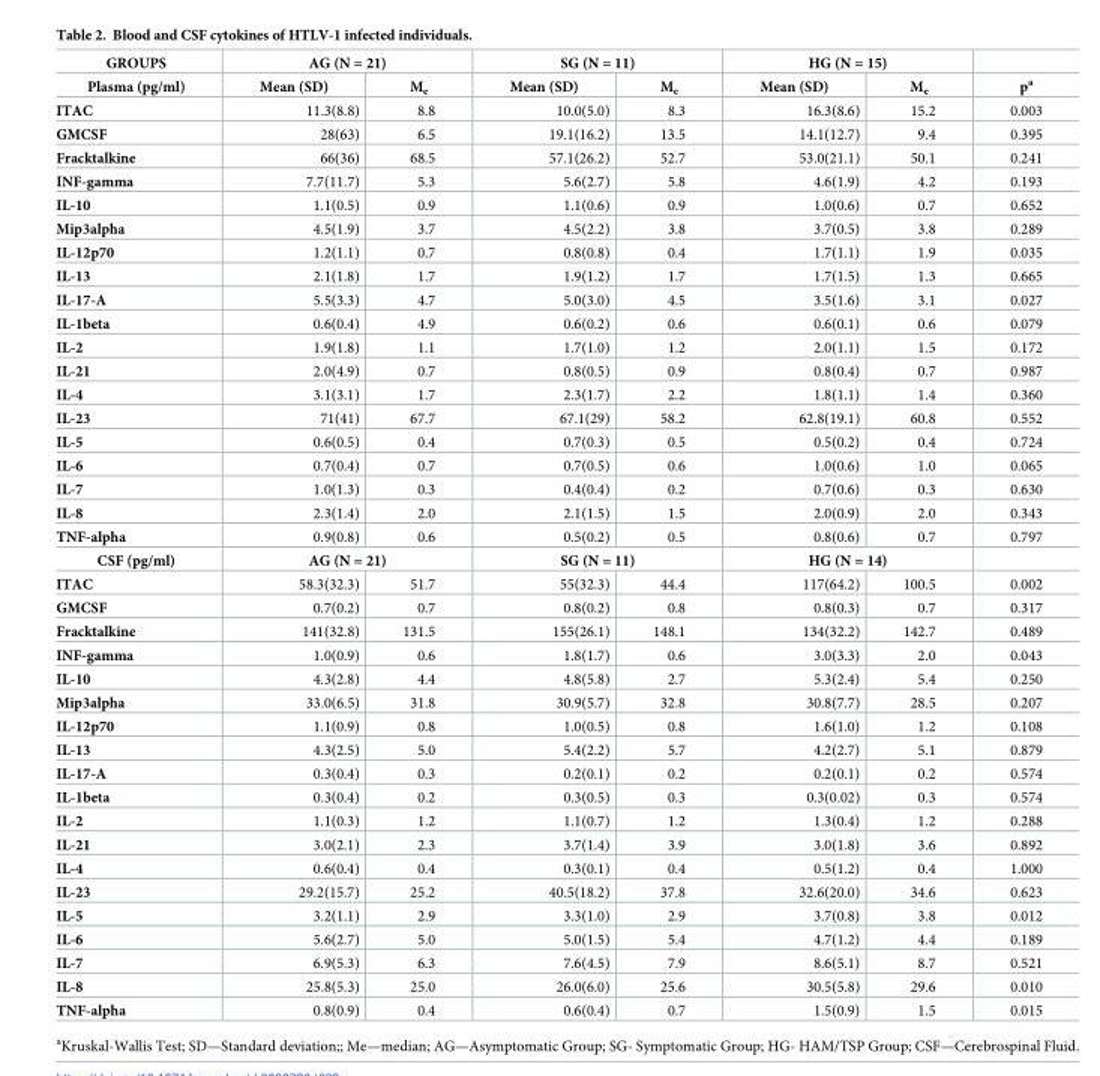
<table><thead><tr><td rowspan="2">GROUPS Plasma (pg/ml)</td><td colspan="2">AG (N = 21)</td><td colspan="2">SG (N = 11)</td><td colspan="2">HG (N = 15)</td><td rowspan="2">p<sup>a</sup></td></tr><tr><td>Mean (SD)</td><td>M<sub>e</sub></td><td>Mean (SD)</td><td>M<sub>e</sub></td><td>Mean (SD)</td><td>M<sub>e</sub></td></tr></thead><tbody><tr><td>ITAC</td><td>11.3(8.8)</td><td>8.8</td><td>10.0(5.0)</td><td>8.3</td><td>16.3(8.6)</td><td>15.2</td><td>0.003</td></tr><tr><td>GMCSF</td><td>28(63)</td><td>6.5</td><td>19.1(16.2)</td><td>13.5</td><td>14.1(12.7)</td><td>9.4</td><td>0.395</td></tr><tr><td>Fracktalkine</td><td>66(36)</td><td>68.5</td><td>57.1(26.2)</td><td>52.7</td><td>53.0(21.1)</td><td>50.1</td><td>0.241</td></tr><tr><td>INF-gamma</td><td>7.7(11.7)</td><td>5.3</td><td>5.6(2.7)</td><td>5.8</td><td>4.6(1.9)</td><td>4.2</td><td>0.193</td></tr><tr><td>IL-10</td><td>1.1(0.5)</td><td>0.9</td><td>1.1(0.6)</td><td>0.9</td><td>1.0(0.6)</td><td>0.7</td><td>0.652</td></tr><tr><td>Mip3alpha</td><td>4.5(1.9)</td><td>3.7</td><td>4.5(2.2)</td><td>3.8</td><td>3.7(0.5)</td><td>3.8</td><td>0.289</td></tr><tr><td>IL-12p70</td><td>1.2(1.1)</td><td>0.7</td><td>0.8(0.8)</td><td>0.4</td><td>1.7(1.1)</td><td>1.9</td><td>0.035</td></tr><tr><td>IL-13</td><td>2.1(1.8)</td><td>1.7</td><td>1.9(1.2)</td><td>1.7</td><td>1.7(1.5)</td><td>1.3</td><td>0.665</td></tr><tr><td>IL-17-A</td><td>5.5(3.3)</td><td>4.7</td><td>5.0(3.0)</td><td>4.5</td><td>3.5(1.6)</td><td>3.1</td><td>0.027</td></tr><tr><td>IL-1beta</td><td>0.6(0.4)</td><td>4.9</td><td>0.6(0.2)</td><td>0.6</td><td>0.6(0.1)</td><td>0.6</td><td>0.079</td></tr><tr><td>IL-2</td><td>1.9(1.8)</td><td>1.1</td><td>1.7(1.0)</td><td>1.2</td><td>2.0(1.1)</td><td>1.5</td><td>0.172</td></tr><tr><td>IL-21</td><td>2.0(4.9)</td><td>0.7</td><td>0.8(0.5)</td><td>0.9</td><td>0.8(0.4)</td><td>0.7</td><td>0.987</td></tr><tr><td>IL-4</td><td>3.1(3.1)</td><td>1.7</td><td>2.3(1.7)</td><td>2.2</td><td>1.8(1.1)</td><td>1.4</td><td>0.360</td></tr><tr><td>IL-23</td><td>71(41)</td><td>67.7</td><td>67.1(29)</td><td>58.2</td><td>62.8(19.1)</td><td>60.8</td><td>0.552</td></tr><tr><td>IL-5</td><td>0.6(0.5)</td><td>0.4</td><td>0.7(0.3)</td><td>0.5</td><td>0.5(0.2)</td><td>0.4</td><td>0.724</td></tr><tr><td>IL-6</td><td>0.7(0.4)</td><td>0.7</td><td>0.7(0.5)</td><td>0.6</td><td>1.0(0.6)</td><td>1.0</td><td>0.065</td></tr><tr><td>IL-7</td><td>1.0(1.3)</td><td>0.3</td><td>0.4(0.4)</td><td>0.2</td><td>0.7(0.6)</td><td>0.3</td><td>0.630</td></tr><tr><td>IL-8</td><td>2.3(1.4)</td><td>2.0</td><td>2.1(1.5)</td><td>1.5</td><td>2.0(0.9)</td><td>2.0</td><td>0.343</td></tr><tr><td>TNF-alpha</td><td>0.9(0.8)</td><td>0.6</td><td>0.5(0.2)</td><td>0.5</td><td>0.8(0.6)</td><td>0.7</td><td>0.797</td></tr><tr><td>CSF (pg/ml)</td><td colspan="2">AG (N = 21)</td><td colspan="2">SG (N = 11)</td><td colspan="2">HG (N = 14)</td><td></td></tr><tr><td>ITAC</td><td>58.3(32.3)</td><td>51.7</td><td>55(32.3)</td><td>44.4</td><td>117(64.2)</td><td>100.5</td><td>0.002</td></tr><tr><td>GMCSF</td><td>0.7(0.2)</td><td>0.7</td><td>0.8(0.2)</td><td>0.8</td><td>0.8(0.3)</td><td>0.7</td><td>0.317</td></tr><tr><td>Fracktalkine</td><td>141(32.8)</td><td>131.5</td><td>155(26.1)</td><td>148.1</td><td>134(32.2)</td><td>142.7</td><td>0.489</td></tr><tr><td>INF-gamma</td><td>1.0(0.9)</td><td>0.6</td><td>1.8(1.7)</td><td>0.6</td><td>3.0(3.3)</td><td>2.0</td><td>0.043</td></tr><tr><td>IL-10</td><td>4.3(2.8)</td><td>4.4</td><td>4.8(5.8)</td><td>2.7</td><td>5.3(2.4)</td><td>5.4</td><td>0.250</td></tr><tr><td>Mip3alpha</td><td>33.0(6.5)</td><td>31.8</td><td>30.9(5.7)</td><td>32.8</td><td>30.8(7.7)</td><td>28.5</td><td>0.207</td></tr><tr><td>IL-12p70</td><td>1.1(0.9)</td><td>0.8</td><td>1.0(0.5)</td><td>0.8</td><td>1.6(1.0)</td><td>1.2</td><td>0.108</td></tr><tr><td>IL-13</td><td>4.3(2.5)</td><td>5.0</td><td>5.4(2.2)</td><td>5.7</td><td>4.2(2.7)</td><td>5.1</td><td>0.879</td></tr><tr><td>IL-17-A</td><td>0.3(0.4)</td><td>0.3</td><td>0.2(0.1)</td><td>0.2</td><td>0.2(0.1)</td><td>0.2</td><td>0.574</td></tr><tr><td>IL-1beta</td><td>0.3(0.4)</td><td>0.2</td><td>0.3(0.5)</td><td>0.3</td><td>0.3(0.02)</td><td>0.3</td><td>0.574</td></tr><tr><td>IL-2</td><td>1.1(0.3)</td><td>1.2</td><td>1.1(0.7)</td><td>1.2</td><td>1.3(0.4)</td><td>1.2</td><td>0.288</td></tr><tr><td>IL-21</td><td>3.0(2.1)</td><td>2.3</td><td>3.7(1.4)</td><td>3.9</td><td>3.0(1.8)</td><td>3.6</td><td>0.892</td></tr><tr><td>IL-4</td><td>0.6(0.4)</td><td>0.4</td><td>0.3(0.1)</td><td>0.4</td><td>0.5(1.2)</td><td>0.4</td><td>1.000</td></tr><tr><td>IL-23</td><td>29.2(15.7)</td><td>25.2</td><td>40.5(18.2)</td><td>37.8</td><td>32.6(20.0)</td><td>34.6</td><td>0.623</td></tr><tr><td>IL-5</td><td>3.2(1.1)</td><td>2.9</td><td>3.3(1.0)</td><td>2.9</td><td>3.7(0.8)</td><td>3.8</td><td>0.012</td></tr><tr><td>IL-6</td><td>5.6(2.7)</td><td>5.0</td><td>5.0(1.5)</td><td>5.4</td><td>4.7(1.2)</td><td>4.4</td><td>0.189</td></tr><tr><td>IL-7</td><td>6.9(5.3)</td><td>6.3</td><td>7.6(4.5)</td><td>7.9</td><td>8.6(5.1)</td><td>8.7</td><td>0.521</td></tr><tr><td>IL-8</td><td>25.8(5.3)</td><td>25.0</td><td>26.0(6.0)</td><td>25.6</td><td>30.5(5.8)</td><td>29.6</td><td>0.010</td></tr><tr><td>TNF-alpha</td><td>0.8(0.9)</td><td>0.4</td><td>0.6(0.4)</td><td>0.7</td><td>1.5(0.9)</td><td>1.5</td><td>0.015</td></tr></tbody></table>